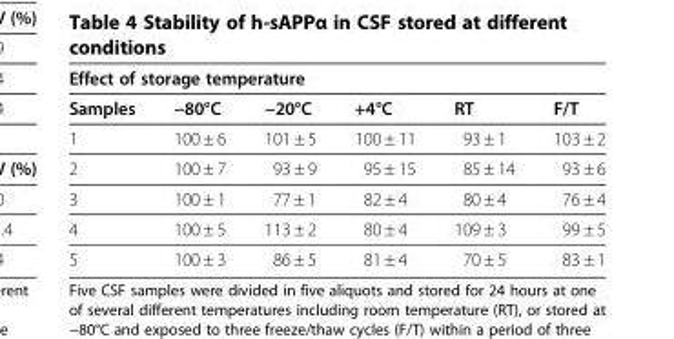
<table><thead><tr><td colspan="6">Effect of storage temperature</td></tr><tr><td>Samples</td><td>−80°C</td><td>−20°C</td><td>+4°C</td><td>RT</td><td>F/T</td></tr></thead><tbody><tr><td>1</td><td>100 ± 6</td><td>101 ± 5</td><td>100 ± 11</td><td>93 ± 1</td><td>103 ± 2</td></tr><tr><td>2</td><td>100 ± 7</td><td>93 ± 9</td><td>95 ± 15</td><td>85 ± 14</td><td>93 ± 6</td></tr><tr><td>3</td><td>100 ± 1</td><td>77 ± 1</td><td>82 ± 4</td><td>80 ± 4</td><td>76 ± 4</td></tr><tr><td>4</td><td>100 ± 5</td><td>113 ± 2</td><td>80 ± 4</td><td>109 ± 3</td><td>99 ± 5</td></tr><tr><td>5</td><td>100 ± 3</td><td>86 ± 5</td><td>81 ± 4</td><td>70 ± 5</td><td>83 ± 1</td></tr></tbody></table>